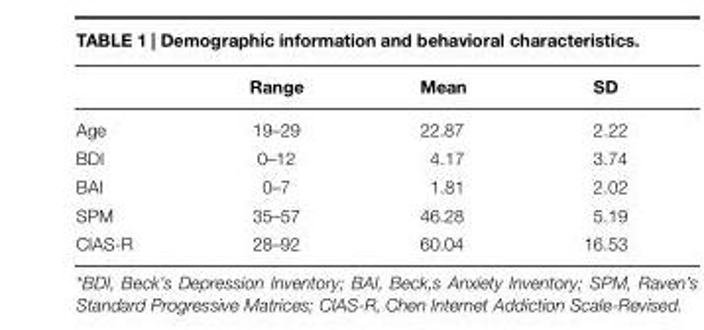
<table><thead><tr><td></td><td>Range</td><td>Mean</td><td>SD</td></tr></thead><tbody><tr><td>Age</td><td>19–29</td><td>22.87</td><td>2.22</td></tr><tr><td>BDI</td><td>0–12</td><td>4.17</td><td>3.74</td></tr><tr><td>BAI</td><td>0–7</td><td>1.81</td><td>2.02</td></tr><tr><td>SPM</td><td>35–57</td><td>46.28</td><td>5.19</td></tr><tr><td>CIAS-R</td><td>28–92</td><td>60.04</td><td>16.53</td></tr></tbody></table>